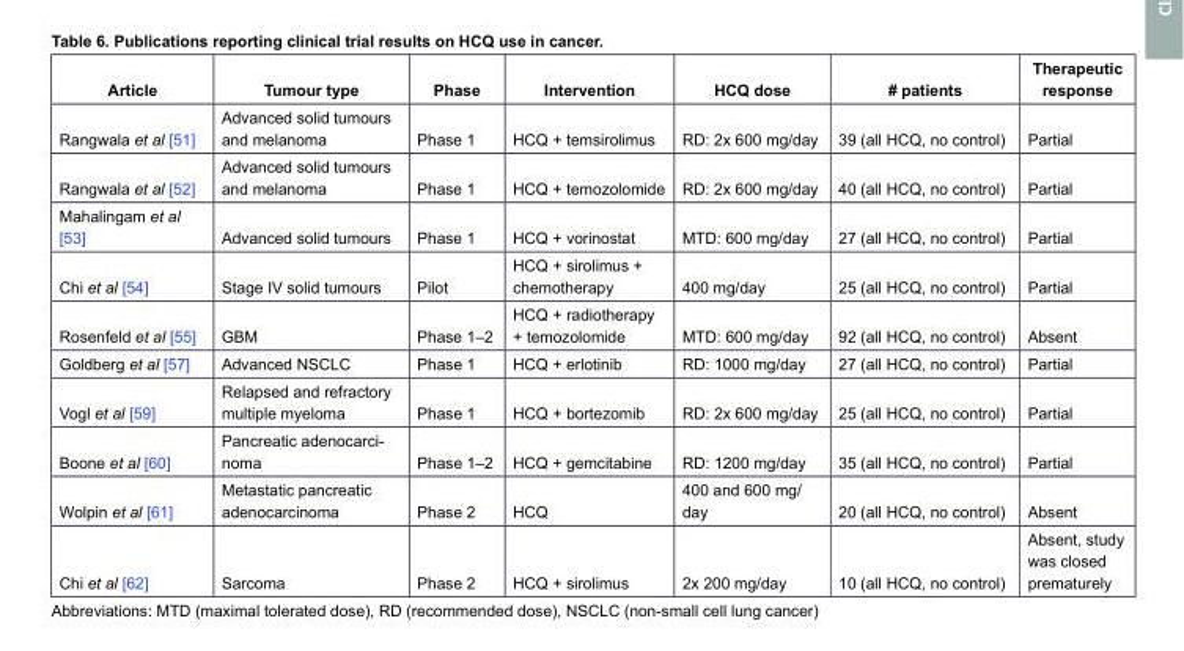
<table><thead><tr><td>Article</td><td>Tumour type</td><td>Phase</td><td>Intervention</td><td>HCQ dose</td><td># patients</td><td>Therapeutic response</td></tr></thead><tbody><tr><td>Rangwala et al [51]</td><td>Advanced solid tumours and melanoma</td><td>Phase 1</td><td>HCQ + temsirolimus</td><td>RD: 2x 600 mg/day</td><td>39 (all HCQ, no control)</td><td>Partial</td></tr><tr><td>Rangwala et al [52]</td><td>Advanced solid tumours and melanoma</td><td>Phase 1</td><td>HCQ + temozolomide</td><td>RD: 2x 600 mg/day</td><td>40 (all HCQ, no control)</td><td>Partial</td></tr><tr><td>Mahalingam et al [53]</td><td>Advanced solid tumours</td><td>Phase 1</td><td>HCQ + vorinostat</td><td>MTD: 600 mg/day</td><td>27 (all HCQ, no control)</td><td>Partial</td></tr><tr><td>Chi et al [54]</td><td>Stage IV solid tumours</td><td>Pilot</td><td>HCQ + sirolimus + chemotherapy</td><td>400 mg/day</td><td>25 (all HCQ, no control)</td><td>Partial</td></tr><tr><td>Rosenfeld et al [55]</td><td>GBM</td><td>Phase 1–2</td><td>HCQ + radiotherapy + temozolomide</td><td>MTD: 600 mg/day</td><td>92 (all HCQ, no control)</td><td>Absent</td></tr><tr><td>Goldberg et al [57]</td><td>Advanced NSCLC</td><td>Phase 1</td><td>HCQ + erlotinib</td><td>RD: 1000 mg/day</td><td>27 (all HCQ, no control)</td><td>Partial</td></tr><tr><td>Vogl et al [59]</td><td>Relapsed and refractory multiple myeloma</td><td>Phase 1</td><td>HCQ + bortezomib</td><td>RD: 2x 600 mg/day</td><td>25 (all HCQ, no control)</td><td>Partial</td></tr><tr><td>Boone et al [60]</td><td>Pancreatic adenocarci- noma</td><td>Phase 1–2</td><td>HCQ + gemcitabine</td><td>RD: 1200 mg/day</td><td>35 (all HCQ, no control)</td><td>Partial</td></tr><tr><td>Wolpin et al [61]</td><td>Metastatic pancreatic adenocarcinoma</td><td>Phase 2</td><td>HCQ</td><td>400 and 600 mg/ day</td><td>20 (all HCQ, no control)</td><td>Absent</td></tr><tr><td>Chi et al [62]</td><td>Sarcoma</td><td>Phase 2</td><td>HCQ + sirolimus</td><td>2x 200 mg/day</td><td>10 (all HCQ, no control)</td><td>Absent, study was closed prematurely</td></tr></tbody></table>